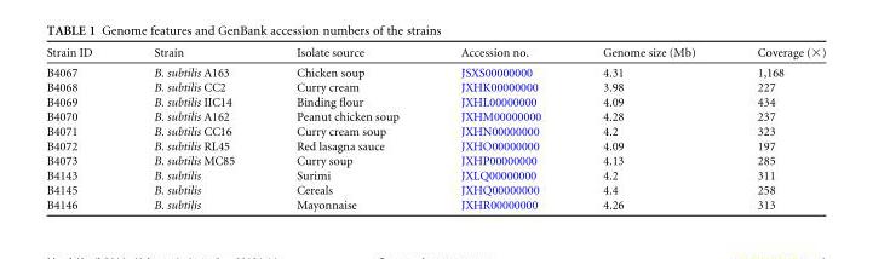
<table><thead><tr><td>Strain ID</td><td>Strain</td><td>Isolate source</td><td>Accession no.</td><td>Genome size (Mb)</td><td>Coverage (×)</td></tr></thead><tbody><tr><td>B4067</td><td>B. subtilis A163</td><td>Chicken soup</td><td>JSXS00000000</td><td>4.31</td><td>1,168</td></tr><tr><td>B4068</td><td>B. subtilis CC2</td><td>Curry cream</td><td>JXHK00000000</td><td>3.98</td><td>227</td></tr><tr><td>B4069</td><td>B. subtilis IIC14</td><td>Binding flour</td><td>JXHL00000000</td><td>4.09</td><td>434</td></tr><tr><td>B4070</td><td>B. subtilis A162</td><td>Peanut chicken soup</td><td>JXHM00000000</td><td>4.28</td><td>237</td></tr><tr><td>B4071</td><td>B. subtilis CC16</td><td>Curry cream soup</td><td>JXHN00000000</td><td>4.2</td><td>323</td></tr><tr><td>B4072</td><td>B. subtilis RL45</td><td>Red lasagna sauce</td><td>JXHO00000000</td><td>4.09</td><td>197</td></tr><tr><td>B4073</td><td>B. subtilis MC85</td><td>Curry soup</td><td>JXHP00000000</td><td>4.13</td><td>285</td></tr><tr><td>B4143</td><td>B. subtilis</td><td>Surimi</td><td>JXLQ00000000</td><td>4.2</td><td>311</td></tr><tr><td>B4145</td><td>B. subtilis</td><td>Cereals</td><td>JXHQ00000000</td><td>4.4</td><td>258</td></tr><tr><td>B4146</td><td>B. subtilis</td><td>Mayonnaise</td><td>JXHR00000000</td><td>4.26</td><td>313</td></tr></tbody></table>